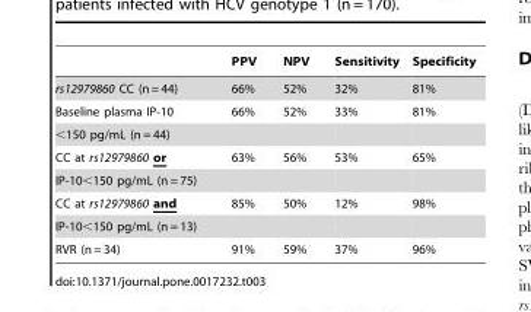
<table><thead><tr><td></td><td>PPV</td><td>NPV</td><td>Sensitivity</td><td>Specificity</td></tr></thead><tbody><tr><td>rs12979860 CC (n = 44)</td><td>66%</td><td>52%</td><td>32%</td><td>81%</td></tr><tr><td>Baseline plasma IP-10</td><td>66%</td><td>52%</td><td>33%</td><td>81%</td></tr><tr><td colspan="5">&lt;150 pg/mL (n = 44)</td></tr><tr><td>CC at rs12979860 or</td><td>63%</td><td>56%</td><td>53%</td><td>65%</td></tr><tr><td colspan="5">IP-10&lt;150 pg/mL (n = 75)</td></tr><tr><td>CC at rs12979860 and</td><td>85%</td><td>50%</td><td>12%</td><td>98%</td></tr><tr><td colspan="5">IP-10&lt;150 pg/mL (n = 13)</td></tr><tr><td>RVR (n = 34)</td><td>91%</td><td>59%</td><td>37%</td><td>96%</td></tr></tbody></table>